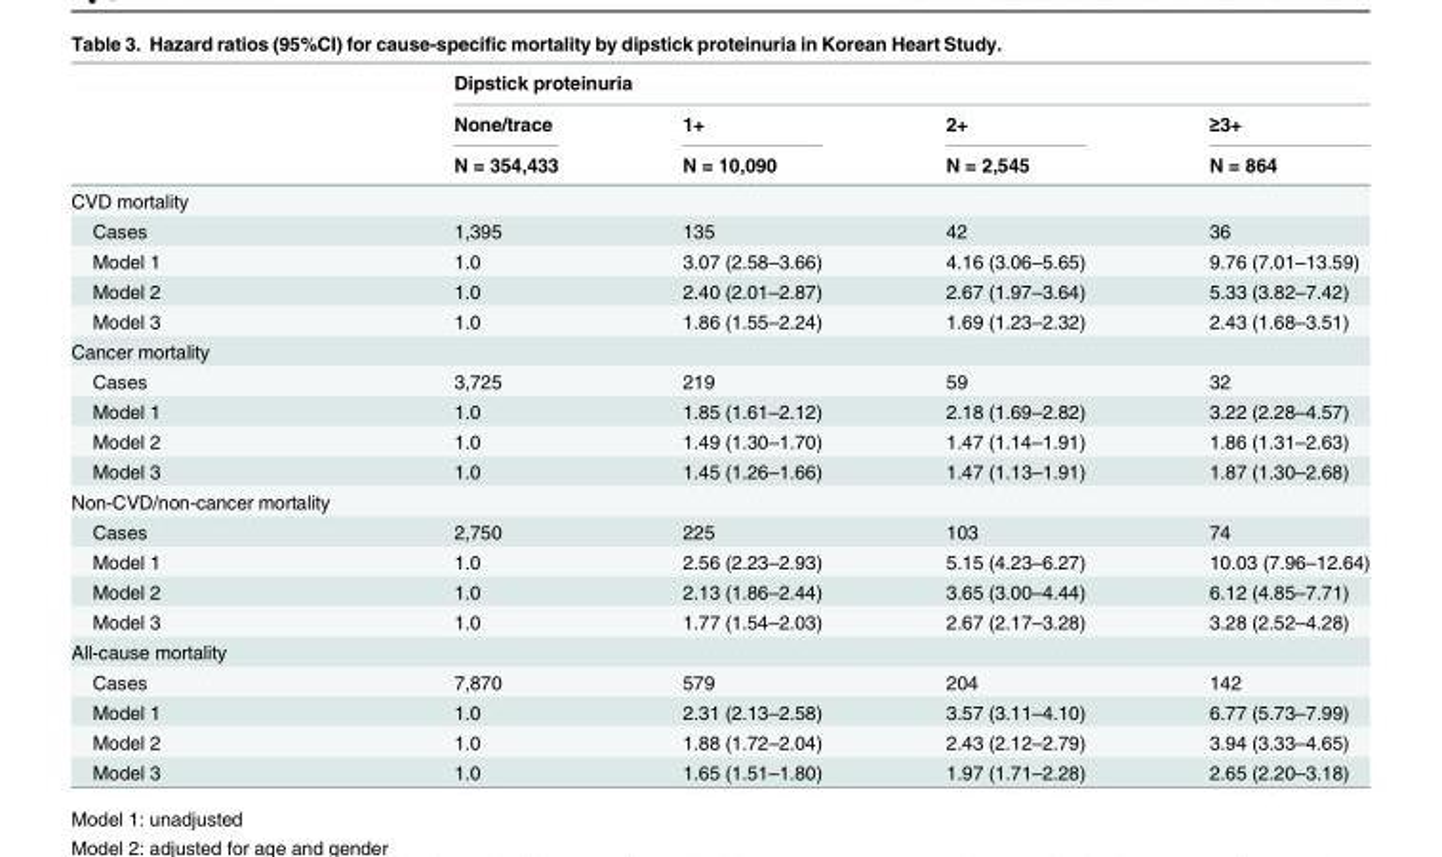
<table><thead><tr><td rowspan="3"></td><td colspan="4">Dipstick proteinuria</td></tr><tr><td rowspan="2">None/trace N = 354,433</td><td rowspan="2">1+ N = 10,090</td><td rowspan="2">2+ N = 2,545</td><td rowspan="2">≥3+ N = 864</td></tr><tr></tr></thead><tbody><tr><td colspan="5">CVD mortality</td></tr><tr><td>Cases</td><td>1,395</td><td>135</td><td>42</td><td>36</td></tr><tr><td>Model 1</td><td>1.0</td><td>3.07 (2.58–3.66)</td><td>4.16 (3.06–5.65)</td><td>9.76 (7.01–13.59)</td></tr><tr><td>Model 2</td><td>1.0</td><td>2.40 (2.01–2.87)</td><td>2.67 (1.97–3.64)</td><td>5.33 (3.82–7.42)</td></tr><tr><td>Model 3</td><td>1.0</td><td>1.86 (1.55–2.24)</td><td>1.69 (1.23–2.32)</td><td>2.43 (1.68–3.51)</td></tr><tr><td colspan="5">Cancer mortality</td></tr><tr><td>Cases</td><td>3,725</td><td>219</td><td>59</td><td>32</td></tr><tr><td>Model 1</td><td>1.0</td><td>1.85 (1.61–2.12)</td><td>2.18 (1.69–2.82)</td><td>3.22 (2.28–4.57)</td></tr><tr><td>Model 2</td><td>1.0</td><td>1.49 (1.30–1.70)</td><td>1.47 (1.14–1.91)</td><td>1.86 (1.31–2.63)</td></tr><tr><td>Model 3</td><td>1.0</td><td>1.45 (1.26–1.66)</td><td>1.47 (1.13–1.91)</td><td>1.87 (1.30–2.68)</td></tr><tr><td colspan="5">Non-CVD/non-cancer mortality</td></tr><tr><td>Cases</td><td>2,750</td><td>225</td><td>103</td><td>74</td></tr><tr><td>Model 1</td><td>1.0</td><td>2.56 (2.23–2.93)</td><td>5.15 (4.23–6.27)</td><td>10.03 (7.96–12.64)</td></tr><tr><td>Model 2</td><td>1.0</td><td>2.13 (1.86–2.44)</td><td>3.65 (3.00–4.44)</td><td>6.12 (4.85–7.71)</td></tr><tr><td>Model 3</td><td>1.0</td><td>1.77 (1.54–2.03)</td><td>2.67 (2.17–3.28)</td><td>3.28 (2.52–4.28)</td></tr><tr><td colspan="5">All-cause mortality</td></tr><tr><td>Cases</td><td>7,870</td><td>579</td><td>204</td><td>142</td></tr><tr><td>Model 1</td><td>1.0</td><td>2.31 (2.13–2.58)</td><td>3.57 (3.11–4.10)</td><td>6.77 (5.73–7.99)</td></tr><tr><td>Model 2</td><td>1.0</td><td>1.88 (1.72–2.04)</td><td>2.43 (2.12–2.79)</td><td>3.94 (3.33–4.65)</td></tr><tr><td>Model 3</td><td>1.0</td><td>1.65 (1.51–1.80)</td><td>1.97 (1.71–2.28)</td><td>2.65 (2.20–3.18)</td></tr></tbody></table>